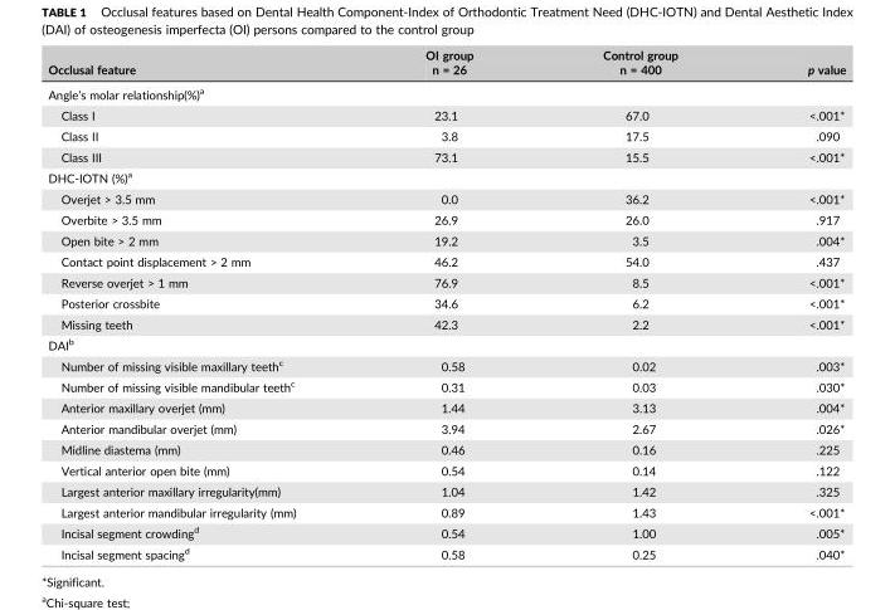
<table><thead><tr><td rowspan="2">Occlusal feature</td><td rowspan="2">OI group n = 26</td><td rowspan="2">Control group n = 400</td><td rowspan="2">p value</td></tr><tr></tr></thead><tbody><tr><td colspan="4">Angle’s molar relationship(%)<sup>a</sup></td></tr><tr><td>Class I</td><td>23.1</td><td>67.0</td><td>&lt;.001*</td></tr><tr><td>Class II</td><td>3.8</td><td>17.5</td><td>.090</td></tr><tr><td>Class III</td><td>73.1</td><td>15.5</td><td>&lt;.001*</td></tr><tr><td colspan="4">DHC‐IOTN (%)<sup>a</sup></td></tr><tr><td>Overjet &gt; 3.5 mm</td><td>0.0</td><td>36.2</td><td>&lt;.001*</td></tr><tr><td>Overbite &gt; 3.5 mm</td><td>26.9</td><td>26.0</td><td>.917</td></tr><tr><td>Open bite &gt; 2 mm</td><td>19.2</td><td>3.5</td><td>.004*</td></tr><tr><td>Contact point displacement &gt; 2 mm</td><td>46.2</td><td>54.0</td><td>.437</td></tr><tr><td>Reverse overjet &gt; 1 mm</td><td>76.9</td><td>8.5</td><td>&lt;.001*</td></tr><tr><td>Posterior crossbite</td><td>34.6</td><td>6.2</td><td>&lt;.001*</td></tr><tr><td>Missing teeth</td><td>42.3</td><td>2.2</td><td>&lt;.001*</td></tr><tr><td colspan="4">DAI<sup>b</sup></td></tr><tr><td>Number of missing visible maxillary teeth<sup>c</sup></td><td>0.58</td><td>0.02</td><td>.003*</td></tr><tr><td>Number of missing visible mandibular teeth<sup>c</sup></td><td>0.31</td><td>0.03</td><td>.030*</td></tr><tr><td>Anterior maxillary overjet (mm)</td><td>1.44</td><td>3.13</td><td>.004*</td></tr><tr><td>Anterior mandibular overjet (mm)</td><td>3.94</td><td>2.67</td><td>.026*</td></tr><tr><td>Midline diastema (mm)</td><td>0.46</td><td>0.16</td><td>.225</td></tr><tr><td>Vertical anterior open bite (mm)</td><td>0.54</td><td>0.14</td><td>.122</td></tr><tr><td>Largest anterior maxillary irregularity(mm)</td><td>1.04</td><td>1.42</td><td>.325</td></tr><tr><td>Largest anterior mandibular irregularity (mm)</td><td>0.89</td><td>1.43</td><td>&lt;.001*</td></tr><tr><td>Incisal segment crowding<sup>d</sup></td><td>0.54</td><td>1.00</td><td>.005*</td></tr><tr><td>Incisal segment spacing<sup>d</sup></td><td>0.58</td><td>0.25</td><td>.040*</td></tr></tbody></table>